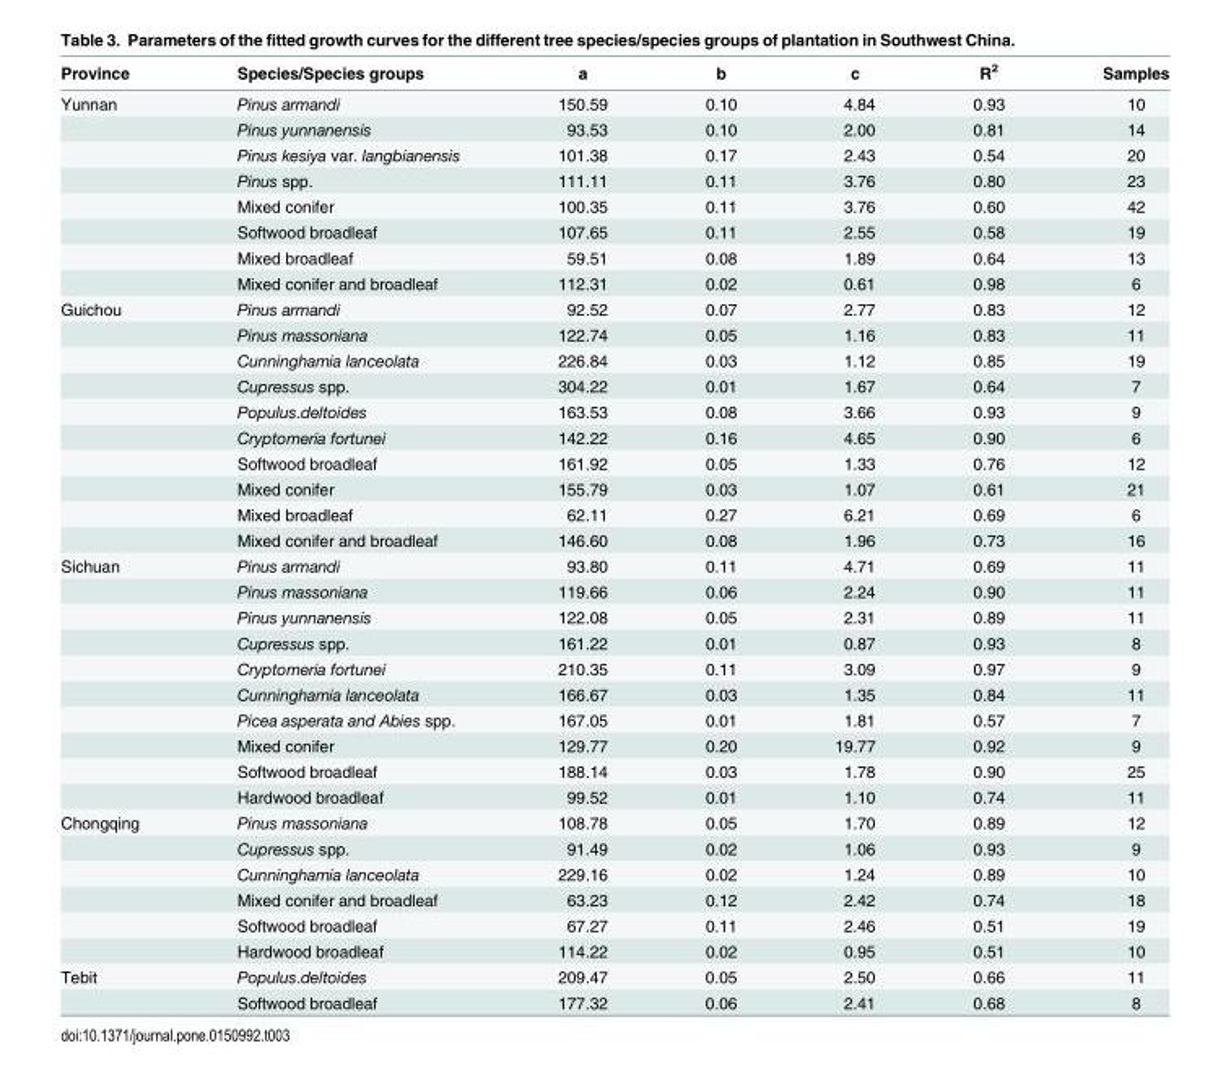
<table><thead><tr><td>Province</td><td>Species/Species groups</td><td>a</td><td>b</td><td>c</td><td>R<sup>2</sup></td><td>Samples</td></tr></thead><tbody><tr><td rowspan="8">Yunnan</td><td>Pinus armandi</td><td>150.59</td><td>0.10</td><td>4.84</td><td>0.93</td><td>10</td></tr><tr><td>Pinus yunnanensis</td><td>93.53</td><td>0.10</td><td>2.00</td><td>0.81</td><td>14</td></tr><tr><td>Pinus kesiya var. langbianensis</td><td>101.38</td><td>0.17</td><td>2.43</td><td>0.54</td><td>20</td></tr><tr><td>Pinus spp.</td><td>111.11</td><td>0.11</td><td>3.76</td><td>0.80</td><td>23</td></tr><tr><td>Mixed conifer</td><td>100.35</td><td>0.11</td><td>3.76</td><td>0.60</td><td>42</td></tr><tr><td>Softwood broadleaf</td><td>107.65</td><td>0.11</td><td>2.55</td><td>0.58</td><td>19</td></tr><tr><td>Mixed broadleaf</td><td>59.51</td><td>0.08</td><td>1.89</td><td>0.64</td><td>13</td></tr><tr><td>Mixed conifer and broadleaf</td><td>112.31</td><td>0.02</td><td>0.61</td><td>0.98</td><td>6</td></tr><tr><td rowspan="10">Guichou</td><td>Pinus armandi</td><td>92.52</td><td>0.07</td><td>2.77</td><td>0.83</td><td>12</td></tr><tr><td>Pinus massoniana</td><td>122.74</td><td>0.05</td><td>1.16</td><td>0.83</td><td>11</td></tr><tr><td>Cunninghamia lanceolata</td><td>226.84</td><td>0.03</td><td>1.12</td><td>0.85</td><td>19</td></tr><tr><td>Cupressus spp.</td><td>304.22</td><td>0.01</td><td>1.67</td><td>0.64</td><td>7</td></tr><tr><td>Populus.deltoides</td><td>163.53</td><td>0.08</td><td>3.66</td><td>0.93</td><td>9</td></tr><tr><td>Cryptomeria fortunei</td><td>142.22</td><td>0.16</td><td>4.65</td><td>0.90</td><td>6</td></tr><tr><td>Softwood broadleaf</td><td>161.92</td><td>0.05</td><td>1.33</td><td>0.76</td><td>12</td></tr><tr><td>Mixed conifer</td><td>155.79</td><td>0.03</td><td>1.07</td><td>0.61</td><td>21</td></tr><tr><td>Mixed broadleaf</td><td>62.11</td><td>0.27</td><td>6.21</td><td>0.69</td><td>6</td></tr><tr><td>Mixed conifer and broadleaf</td><td>146.60</td><td>0.08</td><td>1.96</td><td>0.73</td><td>16</td></tr><tr><td rowspan="10">Sichuan</td><td>Pinus armandi</td><td>93.80</td><td>0.11</td><td>4.71</td><td>0.69</td><td>11</td></tr><tr><td>Pinus massoniana</td><td>119.66</td><td>0.06</td><td>2.24</td><td>0.90</td><td>11</td></tr><tr><td>Pinus yunnanensis</td><td>122.08</td><td>0.05</td><td>2.31</td><td>0.89</td><td>11</td></tr><tr><td>Cupressus spp.</td><td>161.22</td><td>0.01</td><td>0.87</td><td>0.93</td><td>8</td></tr><tr><td>Cryptomeria fortunei</td><td>210.35</td><td>0.11</td><td>3.09</td><td>0.97</td><td>9</td></tr><tr><td>Cunninghamia lanceolata</td><td>166.67</td><td>0.03</td><td>1.35</td><td>0.84</td><td>11</td></tr><tr><td>Picea asperata and Abies spp.</td><td>167.05</td><td>0.01</td><td>1.81</td><td>0.57</td><td>7</td></tr><tr><td>Mixed conifer</td><td>129.77</td><td>0.20</td><td>19.77</td><td>0.92</td><td>9</td></tr><tr><td>Softwood broadleaf</td><td>188.14</td><td>0.03</td><td>1.78</td><td>0.90</td><td>25</td></tr><tr><td>Hardwood broadleaf</td><td>99.52</td><td>0.01</td><td>1.10</td><td>0.74</td><td>11</td></tr><tr><td rowspan="6">Chongqing</td><td>Pinus massoniana</td><td>108.78</td><td>0.05</td><td>1.70</td><td>0.89</td><td>12</td></tr><tr><td>Cupressus spp.</td><td>91.49</td><td>0.02</td><td>1.06</td><td>0.93</td><td>9</td></tr><tr><td>Cunninghamia lanceolata</td><td>229.16</td><td>0.02</td><td>1.24</td><td>0.89</td><td>10</td></tr><tr><td>Mixed conifer and broadleaf</td><td>63.23</td><td>0.12</td><td>2.42</td><td>0.74</td><td>18</td></tr><tr><td>Softwood broadleaf</td><td>67.27</td><td>0.11</td><td>2.46</td><td>0.51</td><td>19</td></tr><tr><td>Hardwood broadleaf</td><td>114.22</td><td>0.02</td><td>0.95</td><td>0.51</td><td>10</td></tr><tr><td rowspan="2">Tebit</td><td>Populus.deltoides</td><td>209.47</td><td>0.05</td><td>2.50</td><td>0.66</td><td>11</td></tr><tr><td>Softwood broadleaf</td><td>177.32</td><td>0.06</td><td>2.41</td><td>0.68</td><td>8</td></tr></tbody></table>